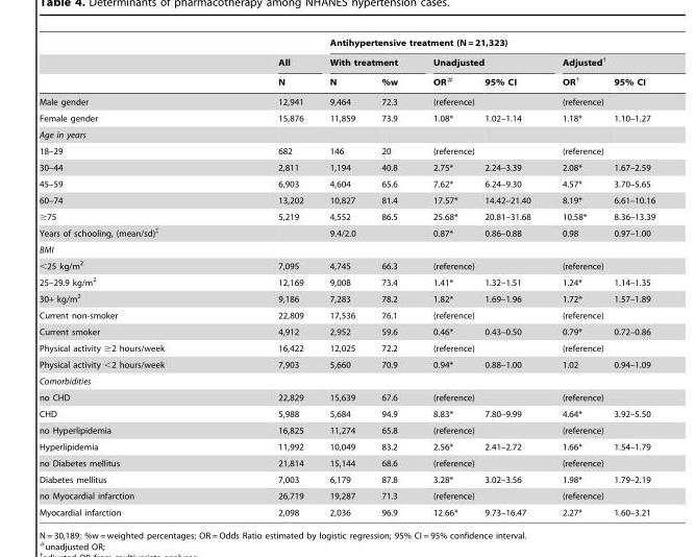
<table><thead><tr><td rowspan="3"></td><td rowspan="3">All N</td><td colspan="6">Antihypertensive treatment (N = 21,323)</td></tr><tr><td colspan="2">With treatment</td><td colspan="2">Unadjusted</td><td colspan="2">Adjusted†</td></tr><tr><td>N</td><td>%w</td><td>OR#</td><td>95% CI</td><td>OR†</td><td>95% CI</td></tr></thead><tbody><tr><td>Male gender</td><td>12,941</td><td>9,464</td><td>72.3</td><td colspan="2">(reference)</td><td colspan="2">(reference)</td></tr><tr><td>Female gender</td><td>15,876</td><td>11,859</td><td>73.9</td><td>1.08*</td><td>1.02–1.14</td><td>1.18*</td><td>1.10–1.27</td></tr><tr><td colspan="8">Age in years</td></tr><tr><td>18–29</td><td>682</td><td>146</td><td>20</td><td colspan="2">(reference)</td><td colspan="2">(reference)</td></tr><tr><td>30–44</td><td>2,811</td><td>1,194</td><td>40.8</td><td>2.75*</td><td>2.24–3.39</td><td>2.08*</td><td>1.67–2.59</td></tr><tr><td>45–59</td><td>6,903</td><td>4,604</td><td>65.6</td><td>7.62*</td><td>6.24–9.30</td><td>4.57*</td><td>3.70–5.65</td></tr><tr><td>60–74</td><td>13,202</td><td>10,827</td><td>81.4</td><td>17.57*</td><td>14.42–21.40</td><td>8.19*</td><td>6.61–10.16</td></tr><tr><td>≥75</td><td>5,219</td><td>4,552</td><td>86.5</td><td>25.68*</td><td>20.81–31.68</td><td>10.58*</td><td>8.36–13.39</td></tr><tr><td>Years of schooling, (mean/sd)‡</td><td></td><td colspan="2">9.4/2.0</td><td>0.87*</td><td>0.86–0.88</td><td>0.98</td><td>0.97–1.00</td></tr><tr><td colspan="8">BMI</td></tr><tr><td>&lt;25 kg/m<sup>2</sup></td><td>7,095</td><td>4,745</td><td>66.3</td><td colspan="2">(reference)</td><td colspan="2">(reference)</td></tr><tr><td>25–29.9 kg/m<sup>2</sup></td><td>12,169</td><td>9,008</td><td>73.4</td><td>1.41*</td><td>1.32–1.51</td><td>1.24*</td><td>1.14–1.35</td></tr><tr><td>30+ kg/m<sup>2</sup></td><td>9,186</td><td>7,283</td><td>78.2</td><td>1.82*</td><td>1.69–1.96</td><td>1.72*</td><td>1.57–1.89</td></tr><tr><td>Current non-smoker</td><td>22,809</td><td>17,536</td><td>76.1</td><td colspan="2">(reference)</td><td colspan="2">(reference)</td></tr><tr><td>Current smoker</td><td>4,912</td><td>2,952</td><td>59.6</td><td>0.46*</td><td>0.43–0.50</td><td>0.79*</td><td>0.72–0.86</td></tr><tr><td>Physical activity ≥2 hours/week</td><td>16,422</td><td>12,025</td><td>72.2</td><td colspan="2">(reference)</td><td colspan="2">(reference)</td></tr><tr><td>Physical activity &lt;2 hours/week</td><td>7,903</td><td>5,660</td><td>70.9</td><td>0.94*</td><td>0.88–1.00</td><td>1.02</td><td>0.94–1.09</td></tr><tr><td colspan="8">Comorbidities</td></tr><tr><td>no CHD</td><td>22,829</td><td>15,639</td><td>67.6</td><td colspan="2">(reference)</td><td colspan="2">(reference)</td></tr><tr><td>CHD</td><td>5,988</td><td>5,684</td><td>94.9</td><td>8.83*</td><td>7.80–9.99</td><td>4.64*</td><td>3.92–5.50</td></tr><tr><td>no Hyperlipidemia</td><td>16,825</td><td>11,274</td><td>65.8</td><td colspan="2">(reference)</td><td colspan="2">(reference)</td></tr><tr><td>Hyperlipidemia</td><td>11,992</td><td>10,049</td><td>83.2</td><td>2.56*</td><td>2.41–2.72</td><td>1.66*</td><td>1.54–1.79</td></tr><tr><td>no Diabetes mellitus</td><td>21,814</td><td>15,144</td><td>68.6</td><td colspan="2">(reference)</td><td colspan="2">(reference)</td></tr><tr><td>Diabetes mellitus</td><td>7,003</td><td>6,179</td><td>87.8</td><td>3.28*</td><td>3.02–3.56</td><td>1.98*</td><td>1.79–2.19</td></tr><tr><td>no Myocardial infarction</td><td>26,719</td><td>19,287</td><td>71.3</td><td colspan="2">(reference)</td><td colspan="2">(reference)</td></tr><tr><td>Myocardial infarction</td><td>2,098</td><td>2,036</td><td>96.9</td><td>12.66*</td><td>9.73–16.47</td><td>2.27*</td><td>1.60–3.21</td></tr></tbody></table>